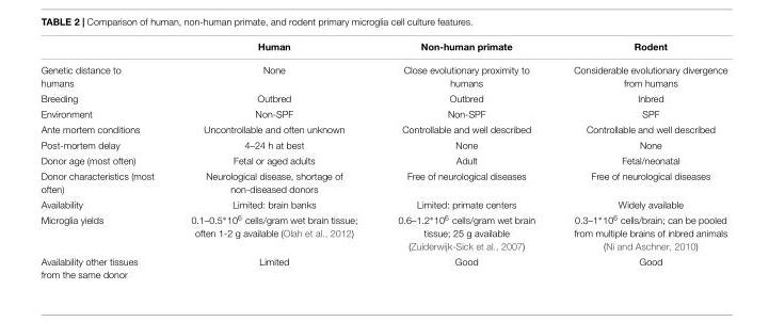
<table><thead><tr><td></td><td>Human</td><td>Non-human primate</td><td>Rodent</td></tr></thead><tbody><tr><td>Genetic distance to humans</td><td>None</td><td>Close evolutionary proximity to humans</td><td>Considerable evolutionary divergence from humans</td></tr><tr><td>Breeding</td><td>Outbred</td><td>Outbred</td><td>Inbred</td></tr><tr><td>Environment</td><td>Non-SPF</td><td>Non-SPF</td><td>SPF</td></tr><tr><td>Ante mortem conditions</td><td>Uncontrollable and often unknown</td><td>Controllable and well described</td><td>Controllable and well described</td></tr><tr><td>Post-mortem delay</td><td>4–24 h at best</td><td>None</td><td>None</td></tr><tr><td>Donor age (most often)</td><td>Fetal or aged adults</td><td>Adult</td><td>Fetal/neonatal</td></tr><tr><td>Donor characteristics (most often)</td><td>Neurological disease, shortage of non-diseased donors</td><td>Free of neurological diseases</td><td>Free of neurological diseases</td></tr><tr><td>Availability</td><td>Limited: brain banks</td><td>Limited: primate centers</td><td>Widely available</td></tr><tr><td>Microglia yields</td><td>0.1–0.5∗10<sup>6</sup> cells/gram wet brain tissue; often 1-2 g available (Olah et al., 2012)</td><td>0.6–1.2∗10<sup>6</sup> cells/gram wet brain tissue; 25 g available (Zuiderwijk-Sick et al., 2007)</td><td>0.3–1∗10<sup>6</sup> cells/brain; can be pooled from multiple brains of inbred animals (Ni and Aschner, 2010)</td></tr><tr><td>Availability other tissues from the same donor</td><td>Limited</td><td>Good</td><td>Good</td></tr></tbody></table>